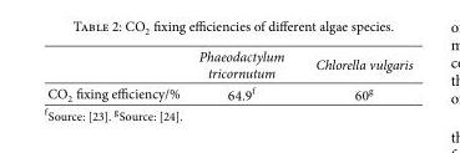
<table><thead><tr><td></td><td>Phaeodactylum tricornutum</td><td>Chlorella vulgaris</td></tr></thead><tbody><tr><td>CO<sub>2</sub> fixing efficiency/%</td><td>64.9<sup>f</sup></td><td>60<sup>g</sup></td></tr></tbody></table>